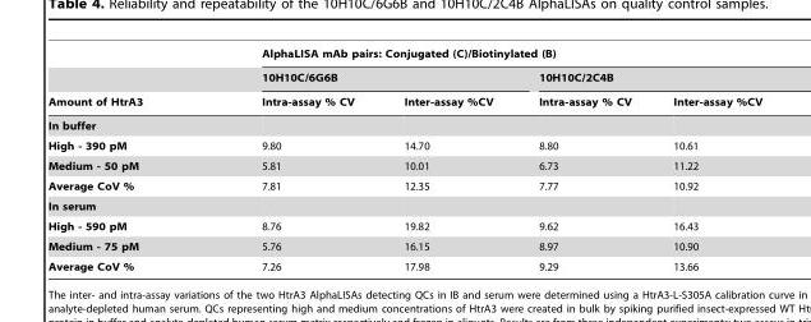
<table><thead><tr><td rowspan="3">Amount of HtrA3</td><td colspan="4">AlphaLISA mAb pairs: Conjugated (C)/Biotinylated (B)</td></tr><tr><td colspan="2">10H10C/6G6B</td><td colspan="2">10H10C/2C4B</td></tr><tr><td>Intra-assay % CV</td><td>Inter-assay %CV</td><td>Intra-assay % CV</td><td>Inter-assay %CV</td></tr></thead><tbody><tr><td colspan="5">In buffer</td></tr><tr><td>High - 390 pM</td><td>9.80</td><td>14.70</td><td>8.80</td><td>10.61</td></tr><tr><td>Medium - 50 pM</td><td>5.81</td><td>10.01</td><td>6.73</td><td>11.22</td></tr><tr><td>Average CoV %</td><td>7.81</td><td>12.35</td><td>7.77</td><td>10.92</td></tr><tr><td colspan="5">In serum</td></tr><tr><td>High - 590 pM</td><td>8.76</td><td>19.82</td><td>9.62</td><td>16.43</td></tr><tr><td>Medium - 75 pM</td><td>5.76</td><td>16.15</td><td>8.97</td><td>10.90</td></tr><tr><td>Average CoV %</td><td>7.26</td><td>17.98</td><td>9.29</td><td>13.66</td></tr></tbody></table>